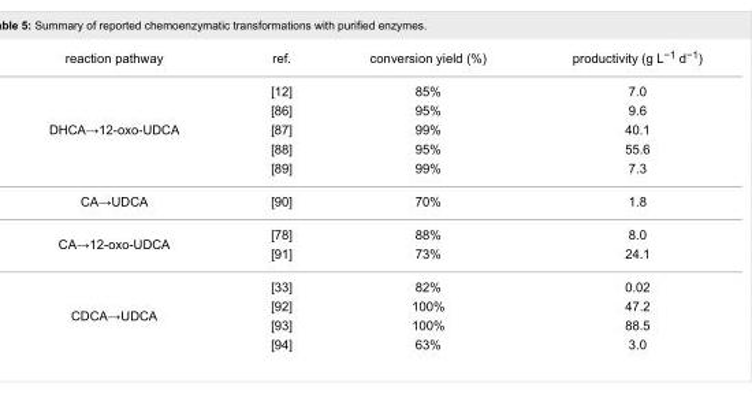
<table><tbody><tr><td>reaction pathway</td><td>ref.</td><td>conversion yield (%)</td><td>productivity (g L<sup>−1</sup> d<sup>−1</sup>)</td></tr><tr><td rowspan="5">DHCA→12-oxo-UDCA</td><td>[12]</td><td>85%</td><td>7.0</td></tr><tr><td>[86]</td><td>95%</td><td>9.6</td></tr><tr><td>[87]</td><td>99%</td><td>40.1</td></tr><tr><td>[88]</td><td>95%</td><td>55.6</td></tr><tr><td>[89]</td><td>99%</td><td>7.3</td></tr><tr><td>CA→UDCA</td><td>[90]</td><td>70%</td><td>1.8</td></tr><tr><td rowspan="2">CA→12-oxo-UDCA</td><td>[78]</td><td>88%</td><td>8.0</td></tr><tr><td>[91]</td><td>73%</td><td>24.1</td></tr><tr><td rowspan="4">CDCA→UDCA</td><td>[33]</td><td>82%</td><td>0.02</td></tr><tr><td>[92]</td><td>100%</td><td>47.2</td></tr><tr><td>[93]</td><td>100%</td><td>88.5</td></tr><tr><td>[94]</td><td>63%</td><td>3.0</td></tr></tbody></table>